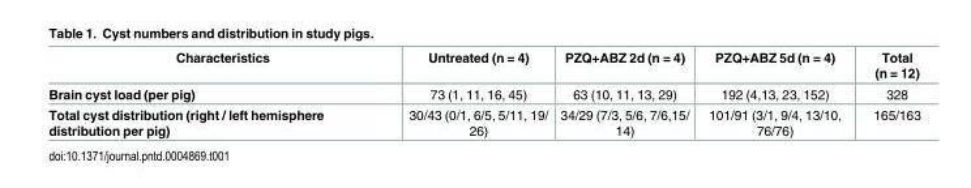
<table><thead><tr><td>Characteristics</td><td>Untreated (n = 4)</td><td>PZQ+ABZ 2d (n = 4)</td><td>PZQ+ABZ 5d (n = 4)</td><td>Total (n = 12)</td></tr></thead><tbody><tr><td>Brain cyst load (per pig)</td><td>73 (1, 11, 16, 45)</td><td>63 (10, 11, 13, 29)</td><td>192 (4,13, 23, 152)</td><td>328</td></tr><tr><td>Total cyst distribution (right / left hemisphere distribution per pig)</td><td>30/43 (0/1, 6/5, 5/11, 19/ 26)</td><td>34/29 (7/3, 5/6, 7/6,15/ 14)</td><td>101/91 (3/1, 9/4, 13/10, 76/76)</td><td>165/163</td></tr></tbody></table>